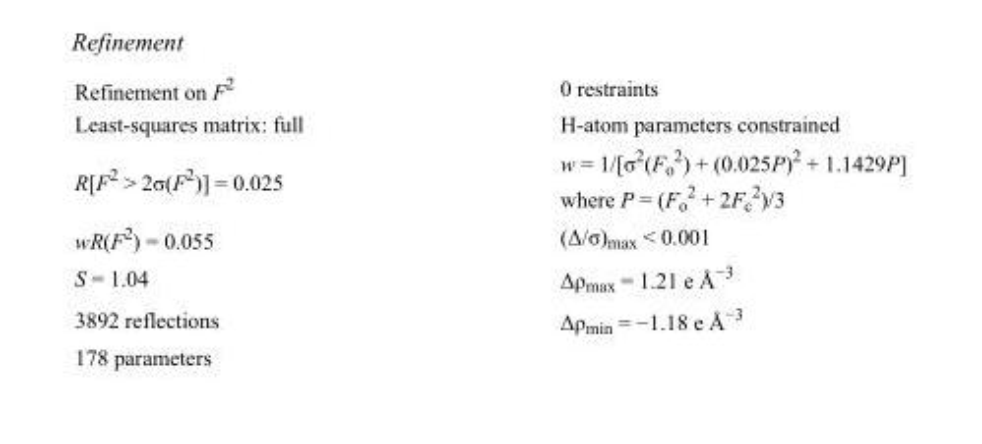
<table><tbody><tr><td>Refinement on F<sup>2</sup></td><td>0 restraints</td></tr><tr><td>Least-squares matrix: full</td><td>H-atom parameters constrained</td></tr><tr><td>R[F<sup>2</sup> &gt; 2σ(F<sup>2</sup>)] = 0.025</td><td>w = 1/[σ<sup>2</sup>(F<sub>o</sub> <sup>2</sup>) + (0.025P)<sup>2</sup> + 1.1429P] where P = (F<sub>o</sub> <sup>2</sup> + 2F<sub>c</sub> <sup>2</sup>)/3</td></tr><tr><td>wR(F<sup>2</sup>) = 0.055</td><td>(Δ/σ)<sub>max</sub> &lt; 0.001</td></tr><tr><td>S = 1.04</td><td>Δρ<sub>max</sub> = 1.21 e Å<sup>−3</sup></td></tr><tr><td>3892 reflections</td><td>Δρ<sub>min</sub> = −1.18 e Å<sup>−3</sup></td></tr><tr><td>178 parameters</td><td></td></tr></tbody></table>